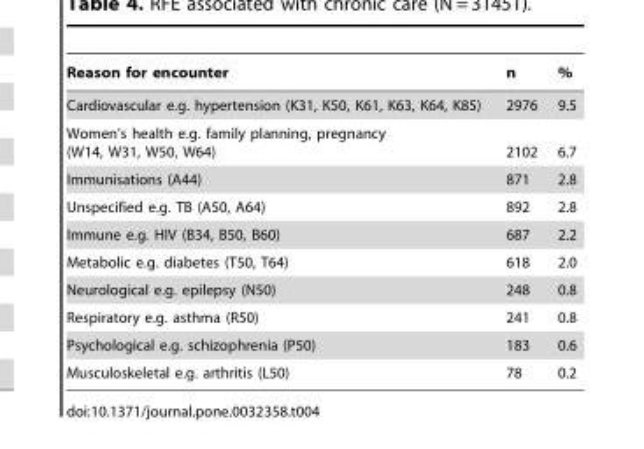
<table><thead><tr><td>Reason for encounter</td><td>n</td><td>%</td></tr></thead><tbody><tr><td>Cardiovascular e.g. hypertension (K31, K50, K61, K63, K64, K85)</td><td>2976</td><td>9.5</td></tr><tr><td>Women’s health e.g. family planning, pregnancy (W14, W31, W50, W64)</td><td>2102</td><td>6.7</td></tr><tr><td>Immunisations (A44)</td><td>871</td><td>2.8</td></tr><tr><td>Unspecified e.g. TB (A50, A64)</td><td>892</td><td>2.8</td></tr><tr><td>Immune e.g. HIV (B34, B50, B60)</td><td>687</td><td>2.2</td></tr><tr><td>Metabolic e.g. diabetes (T50, T64)</td><td>618</td><td>2.0</td></tr><tr><td>Neurological e.g. epilepsy (N50)</td><td>248</td><td>0.8</td></tr><tr><td>Respiratory e.g. asthma (R50)</td><td>241</td><td>0.8</td></tr><tr><td>Psychological e.g. schizophrenia (P50)</td><td>183</td><td>0.6</td></tr><tr><td>Musculoskeletal e.g. arthritis (L50)</td><td>78</td><td>0.2</td></tr></tbody></table>